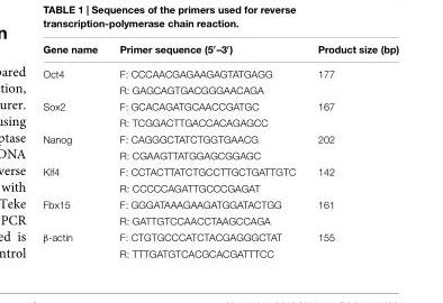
<table><thead><tr><td>Gene name</td><td>Primer sequence (5′–3′)</td><td>Product size (bp)</td></tr></thead><tbody><tr><td rowspan="2">Oct4</td><td>F: CCCAACGAGAAGAGTATGAGG</td><td>177</td></tr><tr><td>R: GAGCAGTGACGGGAACAGA</td><td></td></tr><tr><td rowspan="2">Sox2</td><td>F: GCACAGATGCAACCGATGC</td><td>167</td></tr><tr><td>R: TCGGACTTGACCACAGAGCC</td><td></td></tr><tr><td rowspan="2">Nanog</td><td>F: CAGGGCTATCTGGTGAACG</td><td>202</td></tr><tr><td>R: CGAAGTTATGGAGCGGAGC</td><td></td></tr><tr><td rowspan="2">Klf4</td><td>F: CCTACTTATCTGCCTTGCTGATTGTC</td><td>142</td></tr><tr><td>R: CCCCCAGATTGCCCGAGAT</td><td></td></tr><tr><td rowspan="2">Fbx15</td><td>F: GGGATAAAGAAGATGGATACTGG</td><td>161</td></tr><tr><td>R: GATTGTCCAACCTAAGCCAGA</td><td></td></tr><tr><td rowspan="2">β-actin</td><td>F: CTGTGCCCATCTACGAGGGCTAT</td><td>155</td></tr><tr><td>R: TTTGATGTCACGCACGATTTCC</td><td></td></tr></tbody></table>